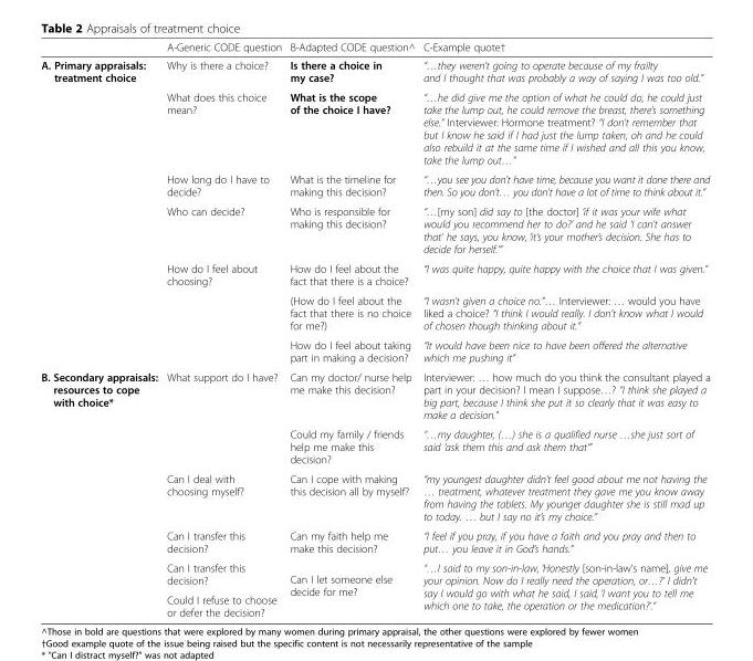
<table><thead><tr><td></td><td>A-Generic CODE question</td><td>B-Adapted CODE question^</td><td>C-Example quote†</td></tr></thead><tbody><tr><td rowspan="7">A. Primary appraisals: treatment choice</td><td>Why is there a choice?</td><td>Is there a choice in my case?</td><td>“…they weren’t going to operate because of my frailty and I thought that was probably a way of saying I was too old.”</td></tr><tr><td>What does this choice mean?</td><td>What is the scope of the choice I have?</td><td>“…he did give me the option of what he could do, he could just take the lump out, he could remove the breast, there’s something else.” Interviewer: Hormone treatment? “I don’t remember that but I know he said if I had just the lump taken, oh and he could also rebuild it at the same time if I wished and all this you know, take the lump out…”</td></tr><tr><td>How long do I have to decide?</td><td>What is the timeline for making this decision?</td><td>“…you see you don’t have time, because you want it done there and then. So you don’t… you don’t have a lot of time to think about it.”</td></tr><tr><td>Who can decide?</td><td>Who is responsible for making this decision?</td><td>“…[my son] did say to [the doctor] ‘if it was your wife what would you recommend her to do?’ and he said ‘I can’t answer that’ he says, you know, ‘it’s your mother’s decision. She has to decide for herself.’”</td></tr><tr><td rowspan="3">How do I feel about choosing?</td><td>How do I feel about the fact that there is a choice?</td><td>“I was quite happy, quite happy with the choice that I was given.”</td></tr><tr><td>(How do I feel about the fact that there is no choice for me?)</td><td>“I wasn’t given a choice no.”… Interviewer: … would you have liked a choice? “I think I would really. I don’t know what I would of chosen though thinking about it.”</td></tr><tr><td>How do I feel about taking part in making a decision?</td><td>“It would have been nice to have been offered the alternative which me pushing it”</td></tr><tr><td rowspan="6">B. Secondary appraisals: resources to cope with choice*</td><td rowspan="2">What support do I have?</td><td>Can my doctor/ nurse help me make this decision?</td><td>Interviewer: … how much do you think the consultant played a part in your decision? I mean I suppose…? “I think she played a big part, because I think she put it so clearly that it was easy to make a decision.”</td></tr><tr><td>Could my family / friends help me make this decision?</td><td>“…my daughter, (…) she is a qualified nurse …she just sort of said ‘ask them this and ask them that’”</td></tr><tr><td>Can I deal with choosing myself?</td><td>Can I cope with making this decision all by myself?</td><td>“my youngest daughter didn’t feel good about me not having the … treatment, whatever treatment they gave me you know away from having the tablets. My younger daughter she is still mad up to today. … but I say no it’s my choice.”</td></tr><tr><td>Can I transfer this decision?</td><td>Can my faith help me make this decision?</td><td>“I feel if you pray, if you have a faith and you pray and then to put… you leave it in God’s hands.”</td></tr><tr><td>Can I transfer this decision?</td><td rowspan="2">Can I let someone else decide for me?</td><td rowspan="2">“…I said to my son-in-law, ‘Honestly [son-in-law’s name], give me your opinion. Now do I really need the operation, or…?’ I didn&#x27;t say I would go with what he said, I said, ‘I want you to tell me which one to take, the operation or the medication?’.”</td></tr><tr><td>Could I refuse to choose or defer the decision?</td></tr></tbody></table>